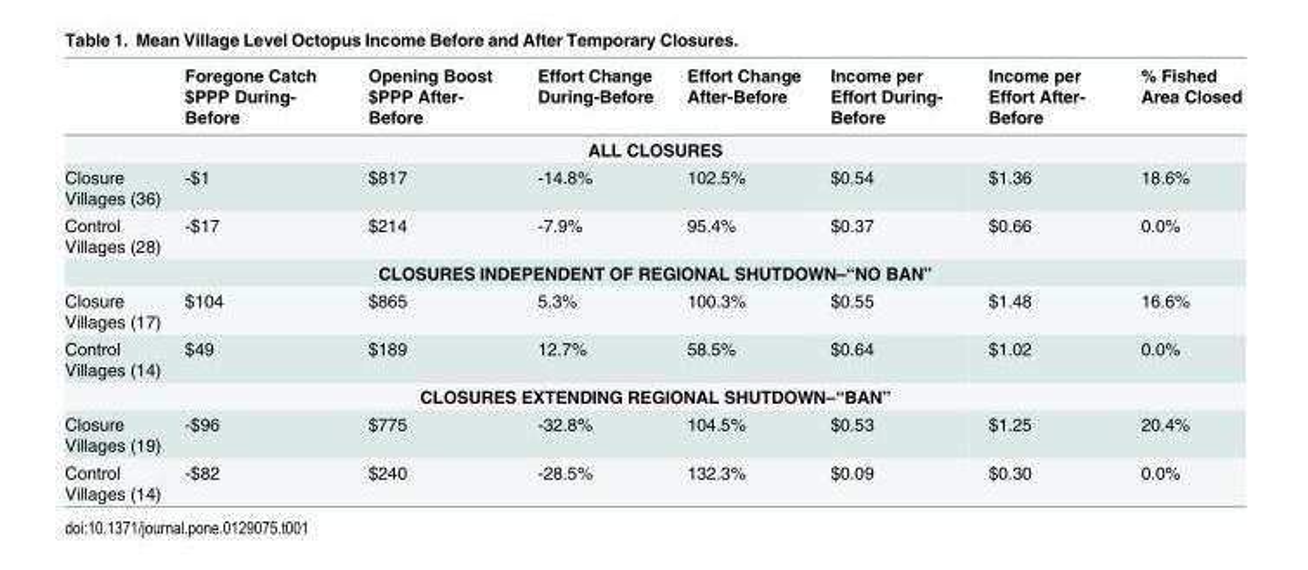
<table><thead><tr><td></td><td>Foregone Catch $PPP During- Before</td><td>Opening Boost $PPP After- Before</td><td>Effort Change During-Before</td><td>Effort Change After-Before</td><td>Income per Effort During- Before</td><td>Income per Effort After- Before</td><td>% Fished Area Closed</td></tr></thead><tbody><tr><td colspan="8">ALL CLOSURES</td></tr><tr><td>Closure Villages (36)</td><td>-$1</td><td>$817</td><td>-14.8%</td><td>102.5%</td><td>$0.54</td><td>$1.36</td><td>18.6%</td></tr><tr><td>Control Villages (28)</td><td>-$17</td><td>$214</td><td>-7.9%</td><td>95.4%</td><td>$0.37</td><td>$0.66</td><td>0.0%</td></tr><tr><td colspan="8">CLOSURES INDEPENDENT OF REGIONAL SHUTDOWN–“NO BAN”</td></tr><tr><td>Closure Villages (17)</td><td>$104</td><td>$865</td><td>5.3%</td><td>100.3%</td><td>$0.55</td><td>$1.48</td><td>16.6%</td></tr><tr><td>Control Villages (14)</td><td>$49</td><td>$189</td><td>12.7%</td><td>58.5%</td><td>$0.64</td><td>$1.02</td><td>0.0%</td></tr><tr><td colspan="8">CLOSURES EXTENDING REGIONAL SHUTDOWN–“BAN”</td></tr><tr><td>Closure Villages (19)</td><td>-$96</td><td>$775</td><td>-32.8%</td><td>104.5%</td><td>$0.53</td><td>$1.25</td><td>20.4%</td></tr><tr><td>Control Villages (14)</td><td>-$82</td><td>$240</td><td>-28.5%</td><td>132.3%</td><td>$0.09</td><td>$0.30</td><td>0.0%</td></tr></tbody></table>